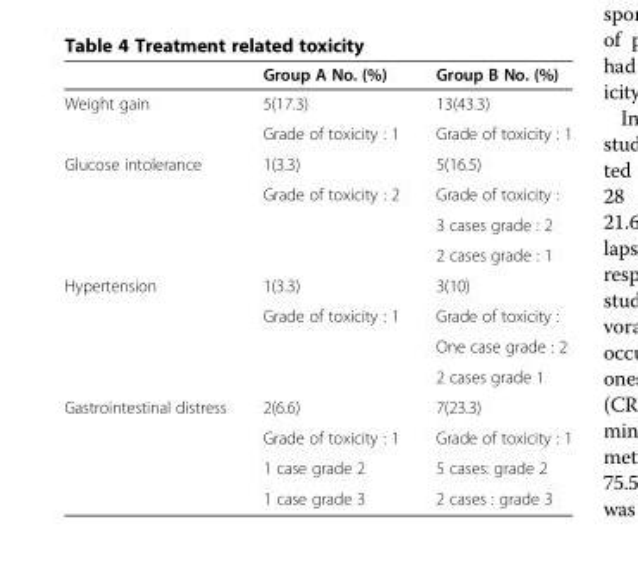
<table><thead><tr><td></td><td>Group A No. (%)</td><td>Group B No. (%)</td></tr></thead><tbody><tr><td rowspan="2">Weight gain</td><td>5(17.3)</td><td>13(43.3)</td></tr><tr><td>Grade of toxicity : 1</td><td>Grade of toxicity : 1</td></tr><tr><td rowspan="4">Glucose intolerance</td><td>1(3.3)</td><td>5(16.5)</td></tr><tr><td rowspan="3">Grade of toxicity : 2</td><td>Grade of toxicity :</td></tr><tr><td>3 cases grade : 2</td></tr><tr><td>2 cases grade : 1</td></tr><tr><td rowspan="4">Hypertension</td><td>1(3.3)</td><td>3(10)</td></tr><tr><td rowspan="3">Grade of toxicity : 1</td><td>Grade of toxicity :</td></tr><tr><td>One case grade : 2</td></tr><tr><td>2 cases grade 1</td></tr><tr><td rowspan="4">Gastrointestinal distress</td><td>2(6.6)</td><td>7(23.3)</td></tr><tr><td>Grade of toxicity : 1</td><td>Grade of toxicity : 1</td></tr><tr><td>1 case grade 2</td><td>5 cases: grade 2</td></tr><tr><td>1 case grade 3</td><td>2 cases : grade 3</td></tr></tbody></table>